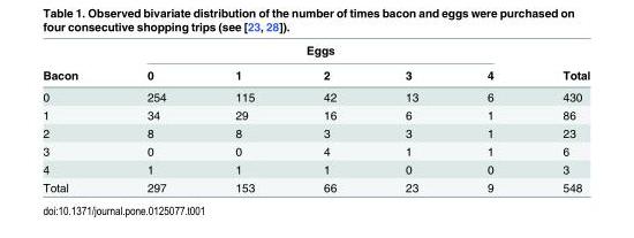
<table><thead><tr><td rowspan="2">Bacon</td><td colspan="5">Eggs</td><td rowspan="2">Total</td></tr><tr><td>0</td><td>1</td><td>2</td><td>3</td><td>4</td></tr></thead><tbody><tr><td>0</td><td>254</td><td>115</td><td>42</td><td>13</td><td>6</td><td>430</td></tr><tr><td>1</td><td>34</td><td>29</td><td>16</td><td>6</td><td>1</td><td>86</td></tr><tr><td>2</td><td>8</td><td>8</td><td>3</td><td>3</td><td>1</td><td>23</td></tr><tr><td>3</td><td>0</td><td>0</td><td>4</td><td>1</td><td>1</td><td>6</td></tr><tr><td>4</td><td>1</td><td>1</td><td>1</td><td>0</td><td>0</td><td>3</td></tr><tr><td>Total</td><td>297</td><td>153</td><td>66</td><td>23</td><td>9</td><td>548</td></tr></tbody></table>